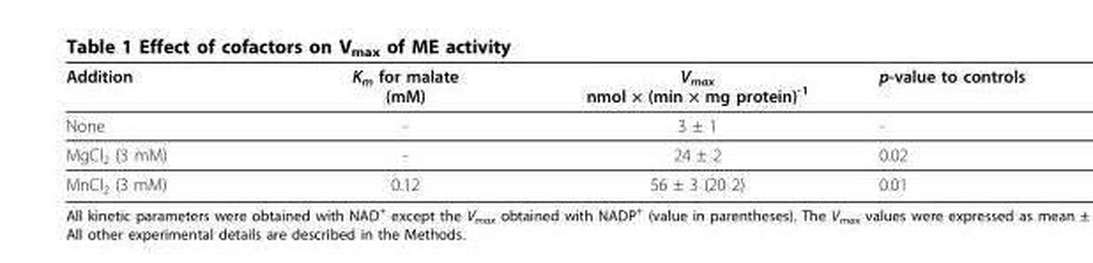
<table><thead><tr><td>Addition</td><td>K<sub>m</sub> for malate (mM)</td><td>V<sub>max</sub> nmol × (min × mg protein)<sup>-1</sup></td><td>p-value to controls</td></tr></thead><tbody><tr><td>None</td><td>-</td><td>3 ± 1</td><td>-</td></tr><tr><td>MgCl<sub>2</sub> (3 mM)</td><td>-</td><td>24 ± 2</td><td>0.02</td></tr><tr><td>MnCl<sub>2</sub> (3 mM)</td><td>0.12</td><td>56 ± 3 (20 2)</td><td>0.01</td></tr></tbody></table>